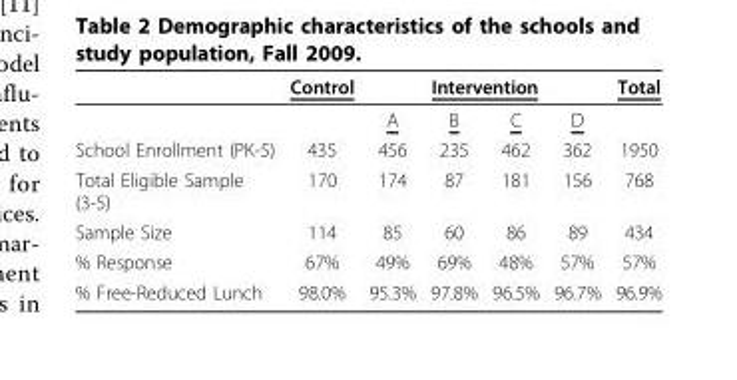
<table><thead><tr><td rowspan="2"></td><td rowspan="2">Control</td><td colspan="4">Intervention</td><td rowspan="2">Total</td></tr><tr><td>A</td><td>B</td><td>C</td><td>D</td></tr></thead><tbody><tr><td>School Enrollment (PK-5)</td><td>435</td><td>456</td><td>235</td><td>462</td><td>362</td><td>1950</td></tr><tr><td>Total Eligible Sample (3-5)</td><td>170</td><td>174</td><td>87</td><td>181</td><td>156</td><td>768</td></tr><tr><td>Sample Size</td><td>114</td><td>85</td><td>60</td><td>86</td><td>89</td><td>434</td></tr><tr><td>% Response</td><td>67%</td><td>49%</td><td>69%</td><td>48%</td><td>57%</td><td>57%</td></tr><tr><td>% Free-Reduced Lunch</td><td>98.0%</td><td>95.3%</td><td>97.8%</td><td>96.5%</td><td>96.7%</td><td>96.9%</td></tr></tbody></table>